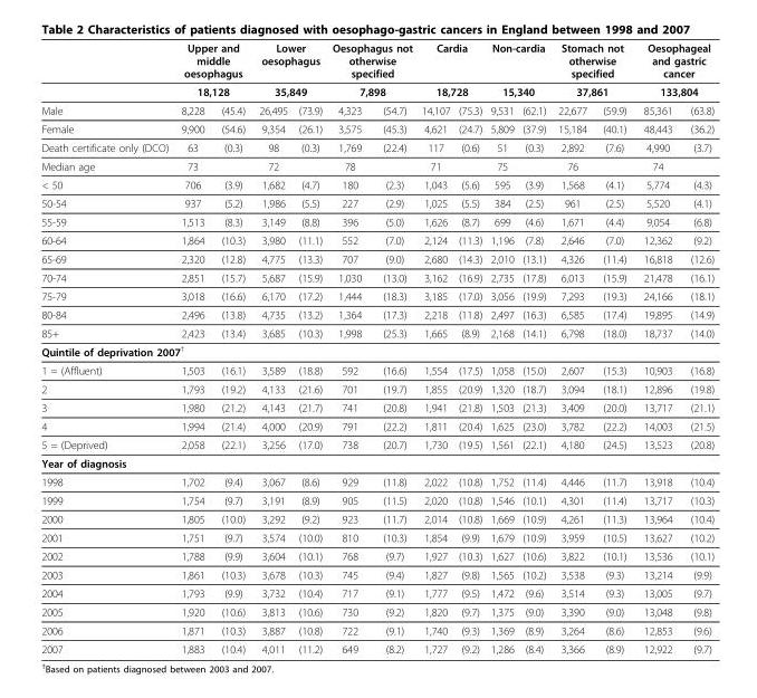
<table><thead><tr><td rowspan="3">Male</td><td rowspan="2" colspan="2">Upper and middle oesophagus 18,128</td><td rowspan="2" colspan="2">Lower oesophagus 35,849</td><td rowspan="2" colspan="2">Oesophagus not otherwise specified 7,898</td><td rowspan="2" colspan="2">Cardia 18,728</td><td rowspan="2" colspan="2">Non-cardia 15,340</td><td rowspan="2" colspan="2">Stomach not otherwise specified 37,861</td><td rowspan="2" colspan="2">Oesophageal and gastric cancer 133,804</td></tr><tr></tr><tr><td>8,228</td><td>(45.4)</td><td>26,495</td><td>(73.9)</td><td>4,323</td><td>(54.7)</td><td>14,107</td><td>(75.3)</td><td>9,531</td><td>(62.1)</td><td>22,677</td><td>(59.9)</td><td>85,361</td><td>(63.8)</td></tr></thead><tbody><tr><td>Female</td><td>9,900</td><td>(54.6)</td><td>9,354</td><td>(26.1)</td><td>3,575</td><td>(45.3)</td><td>4,621</td><td>(24.7)</td><td>5,809</td><td>(37.9)</td><td>15,184</td><td>(40.1)</td><td>48,443</td><td>(36.2)</td></tr><tr><td>Death certificate only (DCO)</td><td>63</td><td>(0.3)</td><td>98</td><td>(0.3)</td><td>1,769</td><td>(22.4)</td><td>117</td><td>(0.6)</td><td>51</td><td>(0.3)</td><td>2,892</td><td>(7.6)</td><td>4,990</td><td>(3.7)</td></tr><tr><td>Median age</td><td>73</td><td></td><td>72</td><td></td><td>78</td><td></td><td>71</td><td></td><td>75</td><td></td><td>76</td><td></td><td>74</td><td></td></tr><tr><td>&lt; 50</td><td>706</td><td>(3.9)</td><td>1,682</td><td>(4.7)</td><td>180</td><td>(2.3)</td><td>1,043</td><td>(5.6)</td><td>595</td><td>(3.9)</td><td>1,568</td><td>(4.1)</td><td>5,774</td><td>(4.3)</td></tr><tr><td>50-54</td><td>937</td><td>(5.2)</td><td>1,986</td><td>(5.5)</td><td>227</td><td>(2.9)</td><td>1,025</td><td>(5.5)</td><td>384</td><td>(2.5)</td><td>961</td><td>(2.5)</td><td>5,520</td><td>(4.1)</td></tr><tr><td>55-59</td><td>1,513</td><td>(8.3)</td><td>3,149</td><td>(8.8)</td><td>396</td><td>(5.0)</td><td>1,626</td><td>(8.7)</td><td>699</td><td>(4.6)</td><td>1,671</td><td>(4.4)</td><td>9,054</td><td>(6.8)</td></tr><tr><td>60-64</td><td>1,864</td><td>(10.3)</td><td>3,980</td><td>(11.1)</td><td>552</td><td>(7.0)</td><td>2,124</td><td>(11.3)</td><td>1,196</td><td>(7.8)</td><td>2,646</td><td>(7.0)</td><td>12,362</td><td>(9.2)</td></tr><tr><td>65-69</td><td>2,320</td><td>(12.8)</td><td>4,775</td><td>(13.3)</td><td>707</td><td>(9.0)</td><td>2,680</td><td>(14.3)</td><td>2,010</td><td>(13.1)</td><td>4,326</td><td>(11.4)</td><td>16,818</td><td>(12.6)</td></tr><tr><td>70-74</td><td>2,851</td><td>(15.7)</td><td>5,687</td><td>(15.9)</td><td>1,030</td><td>(13.0)</td><td>3,162</td><td>(16.9)</td><td>2,735</td><td>(17.8)</td><td>6,013</td><td>(15.9)</td><td>21,478</td><td>(16.1)</td></tr><tr><td>75-79</td><td>3,018</td><td>(16.6)</td><td>6,170</td><td>(17.2)</td><td>1,444</td><td>(18.3)</td><td>3,185</td><td>(17.0)</td><td>3,056</td><td>(19.9)</td><td>7,293</td><td>(19.3)</td><td>24,166</td><td>(18.1)</td></tr><tr><td>80-84</td><td>2,496</td><td>(13.8)</td><td>4,735</td><td>(13.2)</td><td>1,364</td><td>(17.3)</td><td>2,218</td><td>(11.8)</td><td>2,497</td><td>(16.3)</td><td>6,585</td><td>(17.4)</td><td>19,895</td><td>(14.9)</td></tr><tr><td>85+</td><td>2,423</td><td>(13.4)</td><td>3,685</td><td>(10.3)</td><td>1,998</td><td>(25.3)</td><td>1,665</td><td>(8.9)</td><td>2,168</td><td>(14.1)</td><td>6,798</td><td>(18.0)</td><td>18,737</td><td>(14.0)</td></tr><tr><td colspan="15">Quintile of deprivation 2007<sup>†</sup></td></tr><tr><td>1 = (Affluent)</td><td>1,503</td><td>(16.1)</td><td>3,589</td><td>(18.8)</td><td>592</td><td>(16.6)</td><td>1,554</td><td>(17.5)</td><td>1,058</td><td>(15.0)</td><td>2,607</td><td>(15.3)</td><td>10,903</td><td>(16.8)</td></tr><tr><td>2</td><td>1,793</td><td>(19.2)</td><td>4,133</td><td>(21.6)</td><td>701</td><td>(19.7)</td><td>1,855</td><td>(20.9)</td><td>1,320</td><td>(18.7)</td><td>3,094</td><td>(18.1)</td><td>12,896</td><td>(19.8)</td></tr><tr><td>3</td><td>1,980</td><td>(21.2)</td><td>4,143</td><td>(21.7)</td><td>741</td><td>(20.8)</td><td>1,941</td><td>(21.8)</td><td>1,503</td><td>(21.3)</td><td>3,409</td><td>(20.0)</td><td>13,717</td><td>(21.1)</td></tr><tr><td>4</td><td>1,994</td><td>(21.4)</td><td>4,000</td><td>(20.9)</td><td>791</td><td>(22.2)</td><td>1,811</td><td>(20.4)</td><td>1,625</td><td>(23.0)</td><td>3,782</td><td>(22.2)</td><td>14,003</td><td>(21.5)</td></tr><tr><td>5 = (Deprived)</td><td>2,058</td><td>(22.1)</td><td>3,256</td><td>(17.0)</td><td>738</td><td>(20.7)</td><td>1,730</td><td>(19.5)</td><td>1,561</td><td>(22.1)</td><td>4,180</td><td>(24.5)</td><td>13,523</td><td>(20.8)</td></tr><tr><td colspan="15">Year of diagnosis</td></tr><tr><td>1998</td><td>1,702</td><td>(9.4)</td><td>3,067</td><td>(8.6)</td><td>929</td><td>(11.8)</td><td>2,022</td><td>(10.8)</td><td>1,752</td><td>(11.4)</td><td>4,446</td><td>(11.7)</td><td>13,918</td><td>(10.4)</td></tr><tr><td>1999</td><td>1,754</td><td>(9.7)</td><td>3,191</td><td>(8.9)</td><td>905</td><td>(11.5)</td><td>2,020</td><td>(10.8)</td><td>1,546</td><td>(10.1)</td><td>4,301</td><td>(11.4)</td><td>13,717</td><td>(10.3)</td></tr><tr><td>2000</td><td>1,805</td><td>(10.0)</td><td>3,292</td><td>(9.2)</td><td>923</td><td>(11.7)</td><td>2,014</td><td>(10.8)</td><td>1,669</td><td>(10.9)</td><td>4,261</td><td>(11.3)</td><td>13,964</td><td>(10.4)</td></tr><tr><td>2001</td><td>1,751</td><td>(9.7)</td><td>3,574</td><td>(10.0)</td><td>810</td><td>(10.3)</td><td>1,854</td><td>(9.9)</td><td>1,679</td><td>(10.9)</td><td>3,959</td><td>(10.5)</td><td>13,627</td><td>(10.2)</td></tr><tr><td>2002</td><td>1,788</td><td>(9.9)</td><td>3,604</td><td>(10.1)</td><td>768</td><td>(9.7)</td><td>1,927</td><td>(10.3)</td><td>1,627</td><td>(10.6)</td><td>3,822</td><td>(10.1)</td><td>13,536</td><td>(10.1)</td></tr><tr><td>2003</td><td>1,861</td><td>(10.3)</td><td>3,678</td><td>(10.3)</td><td>745</td><td>(9.4)</td><td>1,827</td><td>(9.8)</td><td>1,565</td><td>(10.2)</td><td>3,538</td><td>(9.3)</td><td>13,214</td><td>(9.9)</td></tr><tr><td>2004</td><td>1,793</td><td>(9.9)</td><td>3,732</td><td>(10.4)</td><td>717</td><td>(9.1)</td><td>1,777</td><td>(9.5)</td><td>1,472</td><td>(9.6)</td><td>3,514</td><td>(9.3)</td><td>13,005</td><td>(9.7)</td></tr><tr><td>2005</td><td>1,920</td><td>(10.6)</td><td>3,813</td><td>(10.6)</td><td>730</td><td>(9.2)</td><td>1,820</td><td>(9.7)</td><td>1,375</td><td>(9.0)</td><td>3,390</td><td>(9.0)</td><td>13,048</td><td>(9.8)</td></tr><tr><td>2006</td><td>1,871</td><td>(10.3)</td><td>3,887</td><td>(10.8)</td><td>722</td><td>(9.1)</td><td>1,740</td><td>(9.3)</td><td>1,369</td><td>(8.9)</td><td>3,264</td><td>(8.6)</td><td>12,853</td><td>(9.6)</td></tr><tr><td>2007</td><td>1,883</td><td>(10.4)</td><td>4,011</td><td>(11.2)</td><td>649</td><td>(8.2)</td><td>1,727</td><td>(9.2)</td><td>1,286</td><td>(8.4)</td><td>3,366</td><td>(8.9)</td><td>12,922</td><td>(9.7)</td></tr></tbody></table>